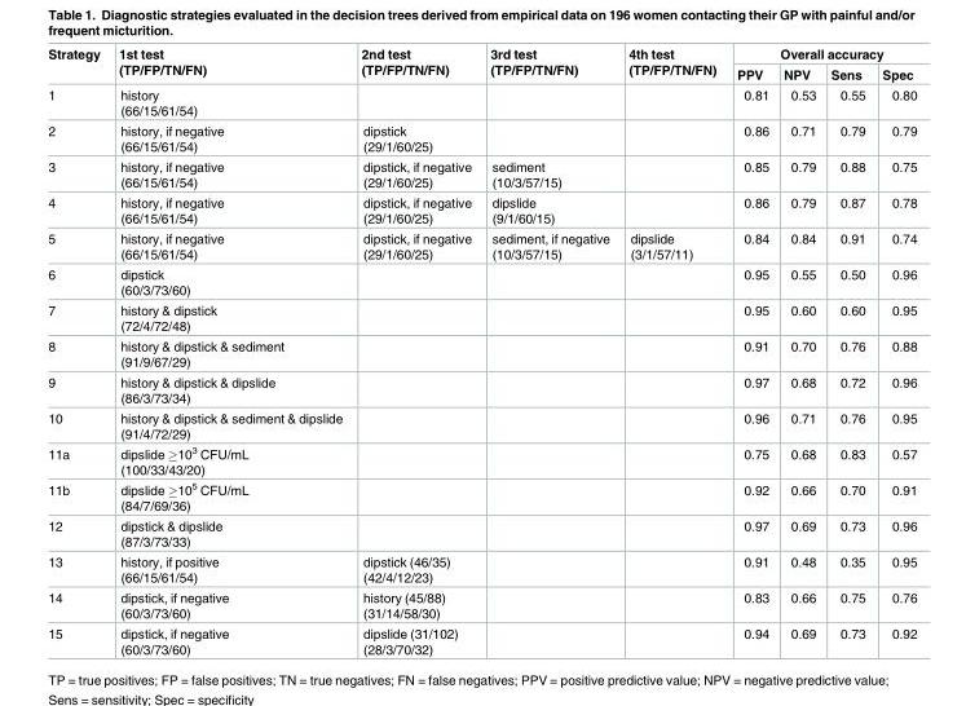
<table><thead><tr><td rowspan="2">Strategy</td><td rowspan="2">1st test (TP/FP/TN/FN)</td><td rowspan="2">2nd test (TP/FP/TN/FN)</td><td rowspan="2">3rd test (TP/FP/TN/FN)</td><td rowspan="2">4th test (TP/FP/TN/FN)</td><td colspan="4">Overall accuracy</td></tr><tr><td>PPV</td><td>NPV</td><td>Sens</td><td>Spec</td></tr></thead><tbody><tr><td>1</td><td>history (66/15/61/54)</td><td></td><td></td><td></td><td>0.81</td><td>0.53</td><td>0.55</td><td>0.80</td></tr><tr><td>2</td><td>history, if negative (66/15/61/54)</td><td>dipstick (29/1/60/25)</td><td></td><td></td><td>0.86</td><td>0.71</td><td>0.79</td><td>0.79</td></tr><tr><td>3</td><td>history, if negative (66/15/61/54)</td><td>dipstick, if negative (29/1/60/25)</td><td>sediment (10/3/57/15)</td><td></td><td>0.85</td><td>0.79</td><td>0.88</td><td>0.75</td></tr><tr><td>4</td><td>history, if negative (66/15/61/54)</td><td>dipstick, if negative (29/1/60/25)</td><td>dipslide (9/1/60/15)</td><td></td><td>0.86</td><td>0.79</td><td>0.87</td><td>0.78</td></tr><tr><td>5</td><td>history, if negative (66/15/61/54)</td><td>dipstick, if negative (29/1/60/25)</td><td>sediment, if negative (10/3/57/15)</td><td>dipslide (3/1/57/11)</td><td>0.84</td><td>0.84</td><td>0.91</td><td>0.74</td></tr><tr><td>6</td><td>dipstick (60/3/73/60)</td><td></td><td></td><td></td><td>0.95</td><td>0.55</td><td>0.50</td><td>0.96</td></tr><tr><td>7</td><td>history &amp; dipstick (72/4/72/48)</td><td></td><td></td><td></td><td>0.95</td><td>0.60</td><td>0.60</td><td>0.95</td></tr><tr><td>8</td><td>history &amp; dipstick &amp; sediment (91/9/67/29)</td><td></td><td></td><td></td><td>0.91</td><td>0.70</td><td>0.76</td><td>0.88</td></tr><tr><td>9</td><td>history &amp; dipstick &amp; dipslide (86/3/73/34)</td><td></td><td></td><td></td><td>0.97</td><td>0.68</td><td>0.72</td><td>0.96</td></tr><tr><td>10</td><td>history &amp; dipstick &amp; sediment &amp; dipslide (91/4/72/29)</td><td></td><td></td><td></td><td>0.96</td><td>0.71</td><td>0.76</td><td>0.95</td></tr><tr><td>11a</td><td>dipslide ≥10<sup>3</sup> CFU/mL (100/33/43/20)</td><td></td><td></td><td></td><td>0.75</td><td>0.68</td><td>0.83</td><td>0.57</td></tr><tr><td>11b</td><td>dipslide ≥10<sup>5</sup> CFU/mL (84/7/69/36)</td><td></td><td></td><td></td><td>0.92</td><td>0.66</td><td>0.70</td><td>0.91</td></tr><tr><td>12</td><td>dipstick &amp; dipslide (87/3/73/33)</td><td></td><td></td><td></td><td>0.97</td><td>0.69</td><td>0.73</td><td>0.96</td></tr><tr><td>13</td><td>history, if positive (66/15/61/54)</td><td>dipstick (46/35) (42/4/12/23)</td><td></td><td></td><td>0.91</td><td>0.48</td><td>0.35</td><td>0.95</td></tr><tr><td>14</td><td>dipstick, if negative (60/3/73/60)</td><td>history (45/88) (31/14/58/30)</td><td></td><td></td><td>0.83</td><td>0.66</td><td>0.75</td><td>0.76</td></tr><tr><td>15</td><td>dipstick, if negative (60/3/73/60)</td><td>dipslide (31/102) (28/3/70/32)</td><td></td><td></td><td>0.94</td><td>0.69</td><td>0.73</td><td>0.92</td></tr></tbody></table>